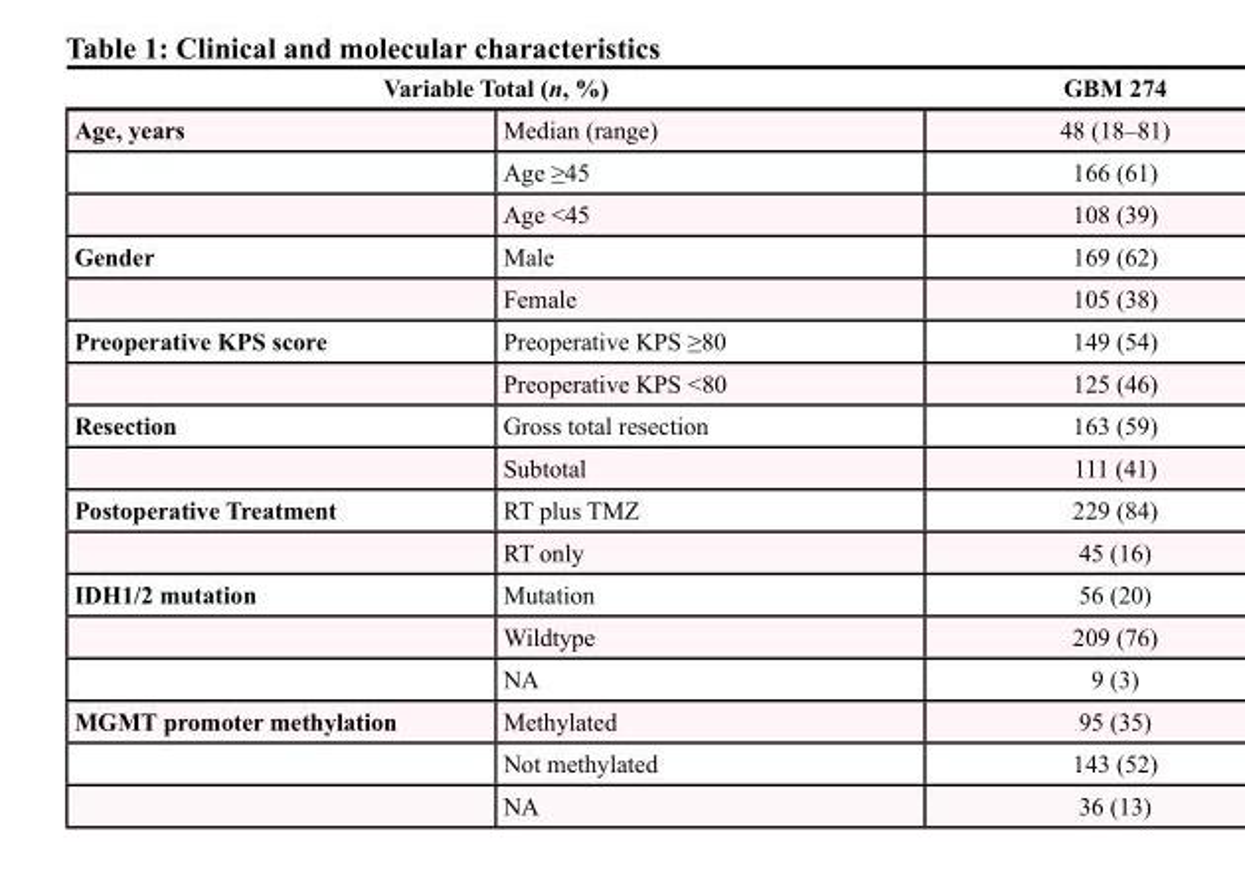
<table><thead><tr><td colspan="2">Variable Total (n, %)</td><td rowspan="2">GBM 274 48 (18–81)</td></tr><tr><td>Age, years</td><td>Median (range)</td></tr></thead><tbody><tr><td></td><td>Age ≥45</td><td>166 (61)</td></tr><tr><td></td><td>Age &lt;45</td><td>108 (39)</td></tr><tr><td rowspan="2">Gender</td><td>Male</td><td>169 (62)</td></tr><tr><td>Female</td><td>105 (38)</td></tr><tr><td rowspan="2">Preoperative KPS score</td><td>Preoperative KPS ≥80</td><td>149 (54)</td></tr><tr><td>Preoperative KPS &lt;80</td><td>125 (46)</td></tr><tr><td rowspan="2">Resection</td><td>Gross total resection</td><td>163 (59)</td></tr><tr><td>Subtotal</td><td>111 (41)</td></tr><tr><td rowspan="2">Postoperative Treatment</td><td>RT plus TMZ</td><td>229 (84)</td></tr><tr><td>RT only</td><td>45 (16)</td></tr><tr><td rowspan="3">IDH1/2 mutation</td><td>Mutation</td><td>56 (20)</td></tr><tr><td>Wildtype</td><td>209 (76)</td></tr><tr><td>NA</td><td>9 (3)</td></tr><tr><td rowspan="3">MGMT promoter methylation</td><td>Methylated</td><td>95 (35)</td></tr><tr><td>Not methylated</td><td>143 (52)</td></tr><tr><td>NA</td><td>36 (13)</td></tr></tbody></table>